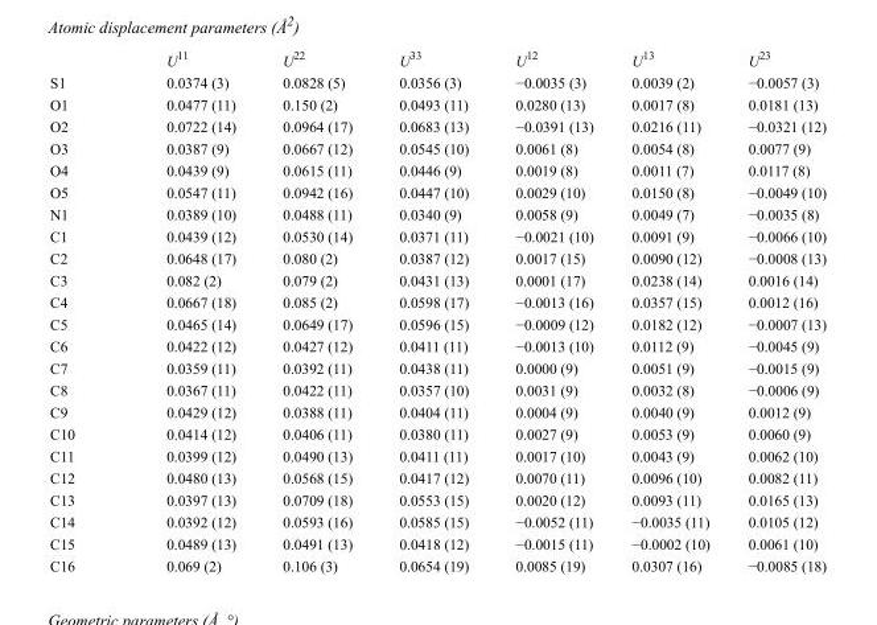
<table><thead><tr><td></td><td>U<sup>11</sup></td><td>U<sup>22</sup></td><td>U<sup>33</sup></td><td>U<sup>12</sup></td><td>U<sup>13</sup></td><td>U<sup>23</sup></td></tr></thead><tbody><tr><td>S1</td><td>0.0374 (3)</td><td>0.0828 (5)</td><td>0.0356 (3)</td><td>−0.0035 (3)</td><td>0.0039 (2)</td><td>−0.0057 (3)</td></tr><tr><td>O1</td><td>0.0477 (11)</td><td>0.150 (2)</td><td>0.0493 (11)</td><td>0.0280 (13)</td><td>0.0017 (8)</td><td>0.0181 (13)</td></tr><tr><td>O2</td><td>0.0722 (14)</td><td>0.0964 (17)</td><td>0.0683 (13)</td><td>−0.0391 (13)</td><td>0.0216 (11)</td><td>−0.0321 (12)</td></tr><tr><td>O3</td><td>0.0387 (9)</td><td>0.0667 (12)</td><td>0.0545 (10)</td><td>0.0061 (8)</td><td>0.0054 (8)</td><td>0.0077 (9)</td></tr><tr><td>O4</td><td>0.0439 (9)</td><td>0.0615 (11)</td><td>0.0446 (9)</td><td>0.0019 (8)</td><td>0.0011 (7)</td><td>0.0117 (8)</td></tr><tr><td>O5</td><td>0.0547 (11)</td><td>0.0942 (16)</td><td>0.0447 (10)</td><td>0.0029 (10)</td><td>0.0150 (8)</td><td>−0.0049 (10)</td></tr><tr><td>N1</td><td>0.0389 (10)</td><td>0.0488 (11)</td><td>0.0340 (9)</td><td>0.0058 (9)</td><td>0.0049 (7)</td><td>−0.0035 (8)</td></tr><tr><td>C1</td><td>0.0439 (12)</td><td>0.0530 (14)</td><td>0.0371 (11)</td><td>−0.0021 (10)</td><td>0.0091 (9)</td><td>−0.0066 (10)</td></tr><tr><td>C2</td><td>0.0648 (17)</td><td>0.080 (2)</td><td>0.0387 (12)</td><td>0.0017 (15)</td><td>0.0090 (12)</td><td>−0.0008 (13)</td></tr><tr><td>C3</td><td>0.082 (2)</td><td>0.079 (2)</td><td>0.0431 (13)</td><td>0.0001 (17)</td><td>0.0238 (14)</td><td>0.0016 (14)</td></tr><tr><td>C4</td><td>0.0667 (18)</td><td>0.085 (2)</td><td>0.0598 (17)</td><td>−0.0013 (16)</td><td>0.0357 (15)</td><td>0.0012 (16)</td></tr><tr><td>C5</td><td>0.0465 (14)</td><td>0.0649 (17)</td><td>0.0596 (15)</td><td>−0.0009 (12)</td><td>0.0182 (12)</td><td>−0.0007 (13)</td></tr><tr><td>C6</td><td>0.0422 (12)</td><td>0.0427 (12)</td><td>0.0411 (11)</td><td>−0.0013 (10)</td><td>0.0112 (9)</td><td>−0.0045 (9)</td></tr><tr><td>C7</td><td>0.0359 (11)</td><td>0.0392 (11)</td><td>0.0438 (11)</td><td>0.0000 (9)</td><td>0.0051 (9)</td><td>−0.0015 (9)</td></tr><tr><td>C8</td><td>0.0367 (11)</td><td>0.0422 (11)</td><td>0.0357 (10)</td><td>0.0031 (9)</td><td>0.0032 (8)</td><td>−0.0006 (9)</td></tr><tr><td>C9</td><td>0.0429 (12)</td><td>0.0388 (11)</td><td>0.0404 (11)</td><td>0.0004 (9)</td><td>0.0040 (9)</td><td>0.0012 (9)</td></tr><tr><td>C10</td><td>0.0414 (12)</td><td>0.0406 (11)</td><td>0.0380 (11)</td><td>0.0027 (9)</td><td>0.0053 (9)</td><td>0.0060 (9)</td></tr><tr><td>C11</td><td>0.0399 (12)</td><td>0.0490 (13)</td><td>0.0411 (11)</td><td>0.0017 (10)</td><td>0.0043 (9)</td><td>0.0062 (10)</td></tr><tr><td>C12</td><td>0.0480 (13)</td><td>0.0568 (15)</td><td>0.0417 (12)</td><td>0.0070 (11)</td><td>0.0096 (10)</td><td>0.0082 (11)</td></tr><tr><td>C13</td><td>0.0397 (13)</td><td>0.0709 (18)</td><td>0.0553 (15)</td><td>0.0020 (12)</td><td>0.0093 (11)</td><td>0.0165 (13)</td></tr><tr><td>C14</td><td>0.0392 (12)</td><td>0.0593 (16)</td><td>0.0585 (15)</td><td>−0.0052 (11)</td><td>−0.0035 (11)</td><td>0.0105 (12)</td></tr><tr><td>C15</td><td>0.0489 (13)</td><td>0.0491 (13)</td><td>0.0418 (12)</td><td>−0.0015 (11)</td><td>−0.0002 (10)</td><td>0.0061 (10)</td></tr><tr><td>C16</td><td>0.069 (2)</td><td>0.106 (3)</td><td>0.0654 (19)</td><td>0.0085 (19)</td><td>0.0307 (16)</td><td>−0.0085 (18)</td></tr></tbody></table>